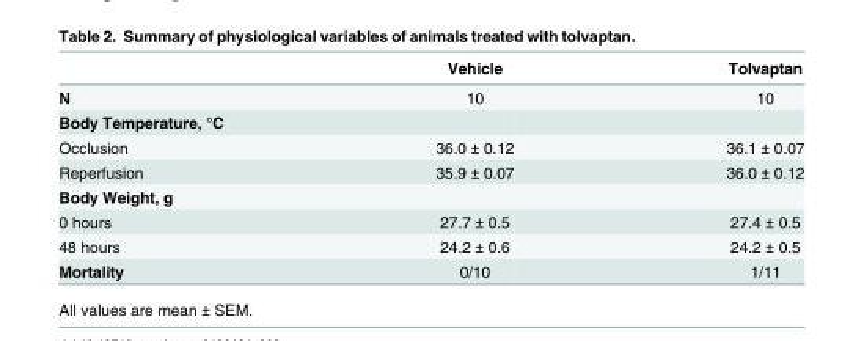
<table><thead><tr><td></td><td>Vehicle</td><td>Tolvaptan</td></tr></thead><tbody><tr><td>N</td><td>10</td><td>10</td></tr><tr><td colspan="3">Body Temperature, °C</td></tr><tr><td>Occlusion</td><td>36.0 ± 0.12</td><td>36.1 ± 0.07</td></tr><tr><td>Reperfusion</td><td>35.9 ± 0.07</td><td>36.0 ± 0.12</td></tr><tr><td colspan="3">Body Weight, g</td></tr><tr><td>0 hours</td><td>27.7 ± 0.5</td><td>27.4 ± 0.5</td></tr><tr><td>48 hours</td><td>24.2 ± 0.6</td><td>24.2 ± 0.5</td></tr><tr><td>Mortality</td><td>0/10</td><td>1/11</td></tr></tbody></table>